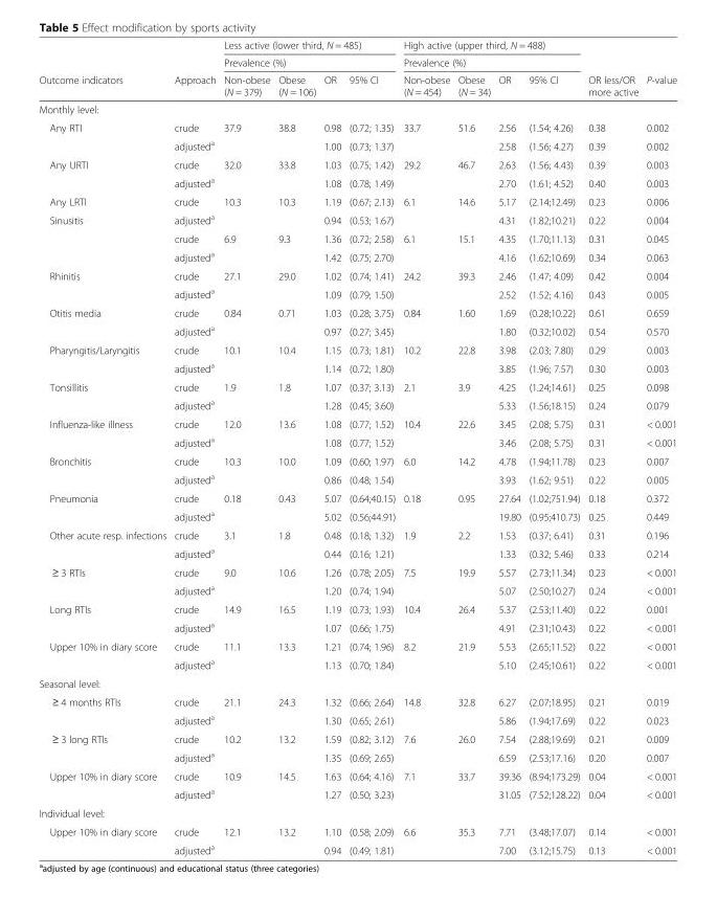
<table><thead><tr><td rowspan="3">Outcome indicators</td><td rowspan="3">Approach</td><td rowspan="2" colspan="4">Less active (lower third, N = 485) Prevalence (%)</td><td rowspan="2" colspan="4">High active (upper third, N = 488) Prevalence (%)</td><td rowspan="3">OR less/OR more active</td><td rowspan="3">P-value</td></tr><tr></tr><tr><td>Non-obese (N = 379)</td><td>Obese (N = 106)</td><td>OR</td><td>95% CI</td><td>Non-obese (N = 454)</td><td>Obese (N = 34)</td><td>OR</td><td>95% CI</td></tr></thead><tbody><tr><td colspan="12">Monthly level:</td></tr><tr><td rowspan="2">Any RTI</td><td>crude</td><td>37.9</td><td>38.8</td><td>0.98</td><td>(0.72; 1.35)</td><td>33.7</td><td>51.6</td><td>2.56</td><td>(1.54; 4.26)</td><td>0.38</td><td>0.002</td></tr><tr><td>adjusted<sup>a</sup></td><td></td><td></td><td>1.00</td><td>(0.73; 1.37)</td><td></td><td></td><td>2.58</td><td>(1.56; 4.27)</td><td>0.39</td><td>0.002</td></tr><tr><td rowspan="2">Any URTI</td><td>crude</td><td>32.0</td><td>33.8</td><td>1.03</td><td>(0.75; 1.42)</td><td>29.2</td><td>46.7</td><td>2.63</td><td>(1.56; 4.43)</td><td>0.39</td><td>0.003</td></tr><tr><td>adjusted<sup>a</sup></td><td></td><td></td><td>1.08</td><td>(0.78; 1.49)</td><td></td><td></td><td>2.70</td><td>(1.61; 4.52)</td><td>0.40</td><td>0.003</td></tr><tr><td>Any LRTI</td><td>crude</td><td>10.3</td><td>10.3</td><td>1.19</td><td>(0.67; 2.13)</td><td>6.1</td><td>14.6</td><td>5.17</td><td>(2.14;12.49)</td><td>0.23</td><td>0.006</td></tr><tr><td rowspan="3">Sinusitis</td><td>adjusted<sup>a</sup></td><td></td><td></td><td>0.94</td><td>(0.53; 1.67)</td><td></td><td></td><td>4.31</td><td>(1.82;10.21)</td><td>0.22</td><td>0.004</td></tr><tr><td>crude</td><td>6.9</td><td>9.3</td><td>1.36</td><td>(0.72; 2.58)</td><td>6.1</td><td>15.1</td><td>4.35</td><td>(1.70;11.13)</td><td>0.31</td><td>0.045</td></tr><tr><td>adjusted<sup>a</sup></td><td></td><td></td><td>1.42</td><td>(0.75; 2.70)</td><td></td><td></td><td>4.16</td><td>(1.62;10.69)</td><td>0.34</td><td>0.063</td></tr><tr><td rowspan="2">Rhinitis</td><td>crude</td><td>27.1</td><td>29.0</td><td>1.02</td><td>(0.74; 1.41)</td><td>24.2</td><td>39.3</td><td>2.46</td><td>(1.47; 4.09)</td><td>0.42</td><td>0.004</td></tr><tr><td>adjusted<sup>a</sup></td><td></td><td></td><td>1.09</td><td>(0.79; 1.50)</td><td></td><td></td><td>2.52</td><td>(1.52; 4.16)</td><td>0.43</td><td>0.005</td></tr><tr><td rowspan="2">Otitis media</td><td>crude</td><td>0.84</td><td>0.71</td><td>1.03</td><td>(0.28; 3.75)</td><td>0.84</td><td>1.60</td><td>1.69</td><td>(0.28;10.22)</td><td>0.61</td><td>0.659</td></tr><tr><td>adjusted<sup>a</sup></td><td></td><td></td><td>0.97</td><td>(0.27; 3.45)</td><td></td><td></td><td>1.80</td><td>(0.32;10.02)</td><td>0.54</td><td>0.570</td></tr><tr><td rowspan="2">Pharyngitis/Laryngitis</td><td>crude</td><td>10.1</td><td>10.4</td><td>1.15</td><td>(0.73; 1.81)</td><td>10.2</td><td>22.8</td><td>3.98</td><td>(2.03; 7.80)</td><td>0.29</td><td>0.003</td></tr><tr><td>adjusted<sup>a</sup></td><td></td><td></td><td>1.14</td><td>(0.72; 1.80)</td><td></td><td></td><td>3.85</td><td>(1.96; 7.57)</td><td>0.30</td><td>0.003</td></tr><tr><td rowspan="2">Tonsillitis</td><td>crude</td><td>1.9</td><td>1.8</td><td>1.07</td><td>(0.37; 3.13)</td><td>2.1</td><td>3.9</td><td>4.25</td><td>(1.24;14.61)</td><td>0.25</td><td>0.098</td></tr><tr><td>adjusted<sup>a</sup></td><td></td><td></td><td>1.28</td><td>(0.45; 3.60)</td><td></td><td></td><td>5.33</td><td>(1.56;18.15)</td><td>0.24</td><td>0.079</td></tr><tr><td rowspan="2">Influenza-like illness</td><td>crude</td><td>12.0</td><td>13.6</td><td>1.08</td><td>(0.77; 1.52)</td><td>10.4</td><td>22.6</td><td>3.45</td><td>(2.08; 5.75)</td><td>0.31</td><td>&lt; 0.001</td></tr><tr><td>adjusted<sup>a</sup></td><td></td><td></td><td>1.08</td><td>(0.77; 1.52)</td><td></td><td></td><td>3.46</td><td>(2.08; 5.75)</td><td>0.31</td><td>&lt; 0.001</td></tr><tr><td rowspan="2">Bronchitis</td><td>crude</td><td>10.3</td><td>10.0</td><td>1.09</td><td>(0.60; 1.97)</td><td>6.0</td><td>14.2</td><td>4.78</td><td>(1.94;11.78)</td><td>0.23</td><td>0.007</td></tr><tr><td>adjusted<sup>a</sup></td><td></td><td></td><td>0.86</td><td>(0.48; 1.54)</td><td></td><td></td><td>3.93</td><td>(1.62; 9.51)</td><td>0.22</td><td>0.005</td></tr><tr><td rowspan="2">Pneumonia</td><td>crude</td><td>0.18</td><td>0.43</td><td>5.07</td><td>(0.64;40.15)</td><td>0.18</td><td>0.95</td><td>27.64</td><td>(1.02;751.94)</td><td>0.18</td><td>0.372</td></tr><tr><td>adjusted<sup>a</sup></td><td></td><td></td><td>5.02</td><td>(0.56;44.91)</td><td></td><td></td><td>19.80</td><td>(0.95;410.73)</td><td>0.25</td><td>0.449</td></tr><tr><td rowspan="2">Other acute resp. infections</td><td>crude</td><td>3.1</td><td>1.8</td><td>0.48</td><td>(0.18; 1.32)</td><td>1.9</td><td>2.2</td><td>1.53</td><td>(0.37; 6.41)</td><td>0.31</td><td>0.196</td></tr><tr><td>adjusted<sup>a</sup></td><td></td><td></td><td>0.44</td><td>(0.16; 1.21)</td><td></td><td></td><td>1.33</td><td>(0.32; 5.46)</td><td>0.33</td><td>0.214</td></tr><tr><td rowspan="2">≥ 3 RTIs</td><td>crude</td><td>9.0</td><td>10.6</td><td>1.26</td><td>(0.78; 2.05)</td><td>7.5</td><td>19.9</td><td>5.57</td><td>(2.73;11.34)</td><td>0.23</td><td>&lt; 0.001</td></tr><tr><td>adjusted<sup>a</sup></td><td></td><td></td><td>1.20</td><td>(0.74; 1.94)</td><td></td><td></td><td>5.07</td><td>(2.50;10.27)</td><td>0.24</td><td>&lt; 0.001</td></tr><tr><td rowspan="2">Long RTIs</td><td>crude</td><td>14.9</td><td>16.5</td><td>1.19</td><td>(0.73; 1.93)</td><td>10.4</td><td>26.4</td><td>5.37</td><td>(2.53;11.40)</td><td>0.22</td><td>0.001</td></tr><tr><td>adjusted<sup>a</sup></td><td></td><td></td><td>1.07</td><td>(0.66; 1.75)</td><td></td><td></td><td>4.91</td><td>(2.31;10.43)</td><td>0.22</td><td>&lt; 0.001</td></tr><tr><td rowspan="2">Upper 10% in diary score</td><td>crude</td><td>11.1</td><td>13.3</td><td>1.21</td><td>(0.74; 1.96)</td><td>8.2</td><td>21.9</td><td>5.53</td><td>(2.65;11.52)</td><td>0.22</td><td>&lt; 0.001</td></tr><tr><td>adjusted<sup>a</sup></td><td></td><td></td><td>1.13</td><td>(0.70; 1.84)</td><td></td><td></td><td>5.10</td><td>(2.45;10.61)</td><td>0.22</td><td>&lt; 0.001</td></tr><tr><td colspan="12">Seasonal level:</td></tr><tr><td rowspan="2">≥ 4 months RTIs</td><td>crude</td><td>21.1</td><td>24.3</td><td>1.32</td><td>(0.66; 2.64)</td><td>14.8</td><td>32.8</td><td>6.27</td><td>(2.07;18.95)</td><td>0.21</td><td>0.019</td></tr><tr><td>adjusted<sup>a</sup></td><td></td><td></td><td>1.30</td><td>(0.65; 2.61)</td><td></td><td></td><td>5.86</td><td>(1.94;17.69)</td><td>0.22</td><td>0.023</td></tr><tr><td rowspan="2">≥ 3 long RTIs</td><td>crude</td><td>10.2</td><td>13.2</td><td>1.59</td><td>(0.82; 3.12)</td><td>7.6</td><td>26.0</td><td>7.54</td><td>(2.88;19.69)</td><td>0.21</td><td>0.009</td></tr><tr><td>adjusted<sup>a</sup></td><td></td><td></td><td>1.35</td><td>(0.69; 2.65)</td><td></td><td></td><td>6.59</td><td>(2.53;17.16)</td><td>0.20</td><td>0.007</td></tr><tr><td rowspan="2">Upper 10% in diary score</td><td>crude</td><td>10.9</td><td>14.5</td><td>1.63</td><td>(0.64; 4.16)</td><td>7.1</td><td>33.7</td><td>39.36</td><td>(8.94;173.29)</td><td>0.04</td><td>&lt; 0.001</td></tr><tr><td>adjusted<sup>a</sup></td><td></td><td></td><td>1.27</td><td>(0.50; 3.23)</td><td></td><td></td><td>31.05</td><td>(7.52;128.22)</td><td>0.04</td><td>&lt; 0.001</td></tr><tr><td colspan="12">Individual level:</td></tr><tr><td rowspan="2">Upper 10% in diary score</td><td>crude</td><td>12.1</td><td>13.2</td><td>1.10</td><td>(0.58; 2.09)</td><td>6.6</td><td>35.3</td><td>7.71</td><td>(3.48;17.07)</td><td>0.14</td><td>&lt; 0.001</td></tr><tr><td>adjusted<sup>a</sup></td><td></td><td></td><td>0.94</td><td>(0.49; 1.81)</td><td></td><td></td><td>7.00</td><td>(3.12;15.75)</td><td>0.13</td><td>&lt; 0.001</td></tr></tbody></table>